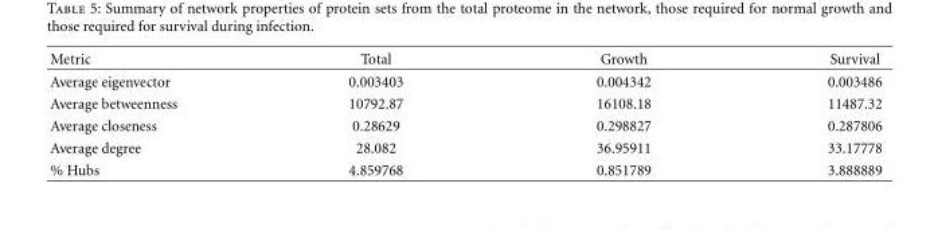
<table><thead><tr><td>Metric</td><td>Total</td><td>Growth</td><td>Survival</td></tr></thead><tbody><tr><td>Average eigenvector</td><td>0.003403</td><td>0.004342</td><td>0.003486</td></tr><tr><td>Average betweenness</td><td>10792.87</td><td>16108.18</td><td>11487.32</td></tr><tr><td>Average closeness</td><td>0.28629</td><td>0.298827</td><td>0.287806</td></tr><tr><td>Average degree</td><td>28.082</td><td>36.95911</td><td>33.17778</td></tr><tr><td>% Hubs</td><td>4.859768</td><td>0.851789</td><td>3.888889</td></tr></tbody></table>